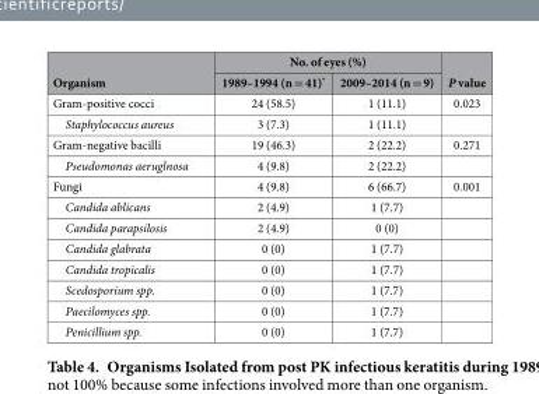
<table><thead><tr><td rowspan="2">Organism</td><td colspan="2">No. of eyes (%)</td><td rowspan="2">P value</td></tr><tr><td>1989–1994 (n = 41)*</td><td>2009–2014 (n = 9)</td></tr></thead><tbody><tr><td>Gram-positive cocci</td><td>24 (58.5)</td><td>1 (11.1)</td><td>0.023</td></tr><tr><td>Staphylococcus aureus</td><td>3 (7.3)</td><td>1 (11.1)</td><td></td></tr><tr><td>Gram-negative bacilli</td><td>19 (46.3)</td><td>2 (22.2)</td><td>0.271</td></tr><tr><td>Pseudomonas aeruglnosa</td><td>4 (9.8)</td><td>2 (22.2)</td><td></td></tr><tr><td>Fungi</td><td>4 (9.8)</td><td>6 (66.7)</td><td>0.001</td></tr><tr><td>Candida ablicans</td><td>2 (4.9)</td><td>1 (7.7)</td><td></td></tr><tr><td>Candida parapsilosis</td><td>2 (4.9)</td><td>0 (0)</td><td></td></tr><tr><td>Candida glabrata</td><td>0 (0)</td><td>1 (7.7)</td><td></td></tr><tr><td>Candida tropicalis</td><td>0 (0)</td><td>1 (7.7)</td><td></td></tr><tr><td>Scedosporium spp.</td><td>0 (0)</td><td>1 (7.7)</td><td></td></tr><tr><td>Paecilomyces spp.</td><td>0 (0)</td><td>1 (7.7)</td><td></td></tr><tr><td>Penicillium spp.</td><td>0 (0)</td><td>1 (7.7)</td><td></td></tr></tbody></table>